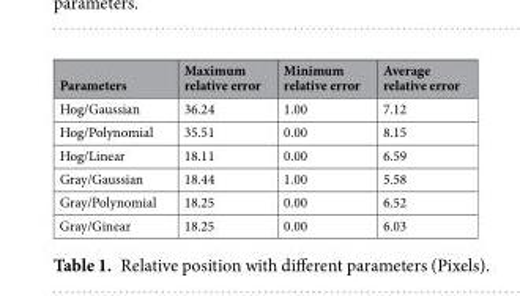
<table><thead><tr><td>Parameters</td><td>Maximum relative error</td><td>Minimum relative error</td><td>Average relative error</td></tr></thead><tbody><tr><td>Hog/Gaussian</td><td>36.24</td><td>1.00</td><td>7.12</td></tr><tr><td>Hog/Polynomial</td><td>35.51</td><td>0.00</td><td>8.15</td></tr><tr><td>Hog/Linear</td><td>18.11</td><td>0.00</td><td>6.59</td></tr><tr><td>Gray/Gaussian</td><td>18.44</td><td>1.00</td><td>5.58</td></tr><tr><td>Gray/Polynomial</td><td>18.25</td><td>0.00</td><td>6.52</td></tr><tr><td>Gray/Ginear</td><td>18.25</td><td>0.00</td><td>6.03</td></tr></tbody></table>